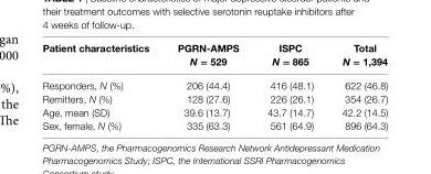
<table><thead><tr><td>Patient characteristics</td><td>Pgrn-aMPs N = 529</td><td>isPc N = 865</td><td>Total N = 1,394</td></tr></thead><tbody><tr><td>Responders, N (%)</td><td>206 (44.4)</td><td>416 (48.1)</td><td>622 (46.8)</td></tr><tr><td>Remitters, N (%)</td><td>128 (27.6)</td><td>226 (26.1)</td><td>354 (26.7)</td></tr><tr><td>Age, mean (SD)</td><td>39.6 (13.7)</td><td>43.7 (14.7)</td><td>42.2 (14.5)</td></tr><tr><td>Sex, female, N (%)</td><td>335 (63.3)</td><td>561 (64.9)</td><td>896 (64.3)</td></tr></tbody></table>